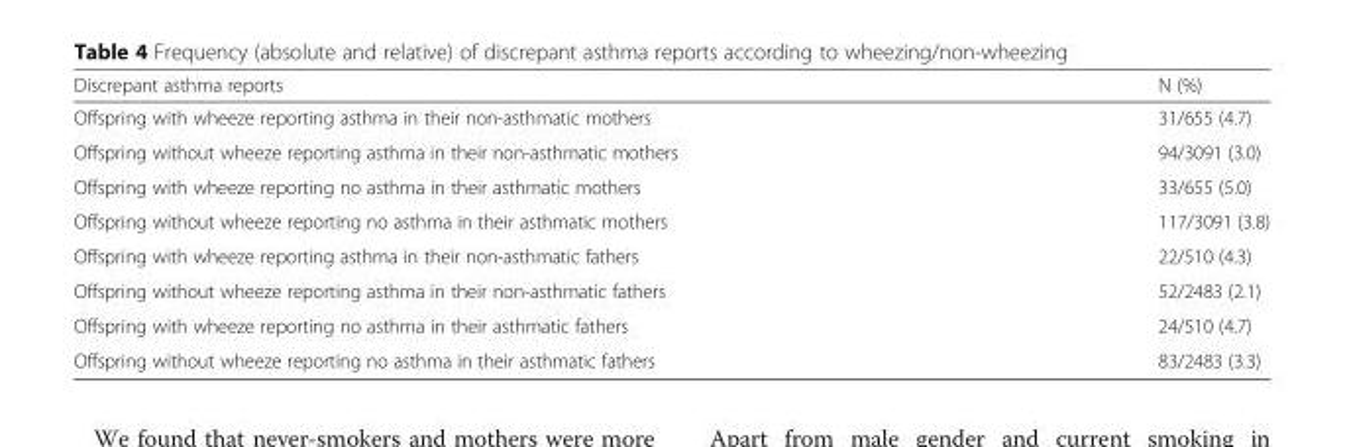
<table><thead><tr><td>Discrepant asthma reports</td><td>N (%)</td></tr></thead><tbody><tr><td>Offspring with wheeze reporting asthma in their non-asthmatic mothers</td><td>31/655 (4.7)</td></tr><tr><td>Offspring without wheeze reporting asthma in their non-asthmatic mothers</td><td>94/3091 (3.0)</td></tr><tr><td>Offspring with wheeze reporting no asthma in their asthmatic mothers</td><td>33/655 (5.0)</td></tr><tr><td>Offspring without wheeze reporting no asthma in their asthmatic mothers</td><td>117/3091 (3.8)</td></tr><tr><td>Offspring with wheeze reporting asthma in their non-asthmatic fathers</td><td>22/510 (4.3)</td></tr><tr><td>Offspring without wheeze reporting asthma in their non-asthmatic fathers</td><td>52/2483 (2.1)</td></tr><tr><td>Offspring with wheeze reporting no asthma in their asthmatic fathers</td><td>24/510 (4.7)</td></tr><tr><td>Offspring without wheeze reporting no asthma in their asthmatic fathers</td><td>83/2483 (3.3)</td></tr></tbody></table>